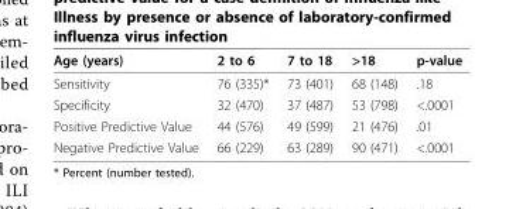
<table><thead><tr><td>Age (years)</td><td>2 to 6</td><td>7 to 18</td><td>&gt;18</td><td>p-value</td></tr></thead><tbody><tr><td>Sensitivity</td><td>76 (335)*</td><td>73 (401)</td><td>68 (148)</td><td>.18</td></tr><tr><td>Specificity</td><td>32 (470)</td><td>37 (487)</td><td>53 (798)</td><td>&lt;.0001</td></tr><tr><td>Positive Predictive Value</td><td>44 (576)</td><td>49 (599)</td><td>21 (476)</td><td>.01</td></tr><tr><td>Negative Predictive Value</td><td>66 (229)</td><td>63 (289)</td><td>90 (471)</td><td>&lt;.0001</td></tr></tbody></table>